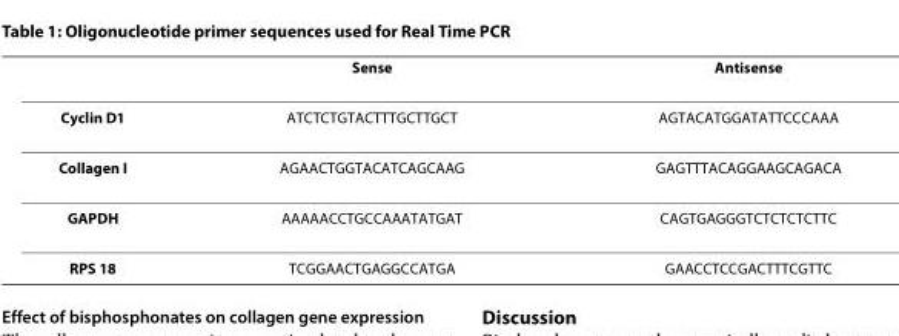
<table><thead><tr><td></td><td>Sense</td><td>Antisense</td></tr></thead><tbody><tr><td>Cyclin D1</td><td>ATCTCTGTACTTTGCTTGCT</td><td>AGTACATGGATATTCCCAAA</td></tr><tr><td>Collagen I</td><td>AGAACTGGTACATCAGCAAG</td><td>GAGTTTACAGGAAGCAGACA</td></tr><tr><td>GAPDH</td><td>AAAAACCTGCCAAATATGAT</td><td>CAGTGAGGGTCTCTCTCTTC</td></tr><tr><td>RPS 18</td><td>TCGGAACTGAGGCCATGA</td><td>GAACCTCCGACTTTCGTTC</td></tr></tbody></table>